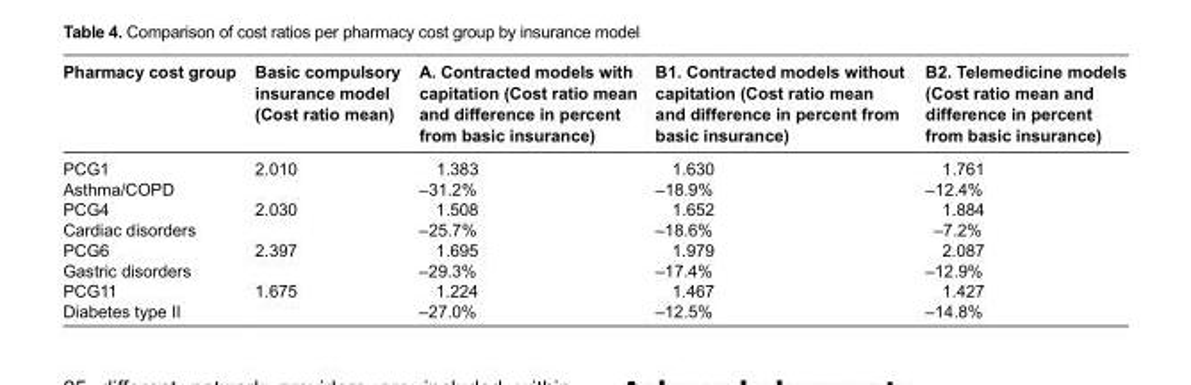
<table><thead><tr><td>Pharmacy cost group</td><td>Basic compulsory insurance model (Cost ratio mean)</td><td>A. Contracted models with capitation (Cost ratio mean and difference in percent from basic insurance)</td><td>B1. Contracted models without capitation (Cost ratio mean and difference in percent from basic insurance)</td><td>B2. Telemedicine models (Cost ratio mean and difference in percent from basic insurance)</td></tr></thead><tbody><tr><td>PCG1</td><td>2.010</td><td>1.383</td><td>1.630</td><td>1.761</td></tr><tr><td>Asthma/COPD</td><td></td><td>–31.2%</td><td>–18.9%</td><td>–12.4%</td></tr><tr><td>PCG4</td><td>2.030</td><td>1.508</td><td>1.652</td><td>1.884</td></tr><tr><td>Cardiac disorders</td><td></td><td>–25.7%</td><td>–18.6%</td><td>–7.2%</td></tr><tr><td>PCG6</td><td>2.397</td><td>1.695</td><td>1.979</td><td>2.087</td></tr><tr><td>Gastric disorders</td><td></td><td>–29.3%</td><td>–17.4%</td><td>–12.9%</td></tr><tr><td>PCG11</td><td>1.675</td><td>1.224</td><td>1.467</td><td>1.427</td></tr><tr><td>Diabetes type II</td><td></td><td>–27.0%</td><td>–12.5%</td><td>–14.8%</td></tr></tbody></table>